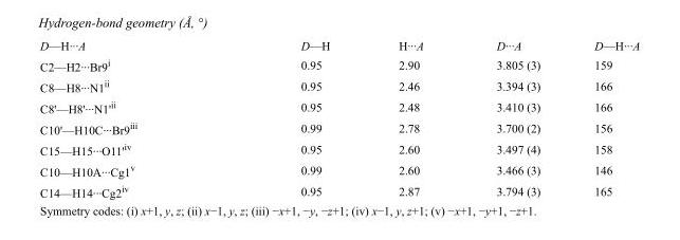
<table><tbody><tr><td>D—H···A</td><td>D—H</td><td>H···A</td><td>D···A</td><td>D—H···A</td></tr><tr><td>C2—H2···Br9<sup>i</sup></td><td>0.95</td><td>2.90</td><td>3.805 (3)</td><td>159</td></tr><tr><td>C8—H8···N1<sup>ii</sup></td><td>0.95</td><td>2.46</td><td>3.394 (3)</td><td>166</td></tr><tr><td>C8&#x27;—H8&#x27;···N1&#x27;<sup>ii</sup></td><td>0.95</td><td>2.48</td><td>3.410 (3)</td><td>166</td></tr><tr><td>C10&#x27;—H10C···Br9<sup>iii</sup></td><td>0.99</td><td>2.78</td><td>3.700 (2)</td><td>156</td></tr><tr><td>C15—H15···O11&#x27;<sup>iv</sup></td><td>0.95</td><td>2.60</td><td>3.497 (4)</td><td>158</td></tr><tr><td>C10—H10A···Cg1<sup>v</sup></td><td>0.99</td><td>2.60</td><td>3.466 (3)</td><td>146</td></tr><tr><td>C14—H14···Cg2<sup>iv</sup></td><td>0.95</td><td>2.87</td><td>3.794 (3)</td><td>165</td></tr></tbody></table>